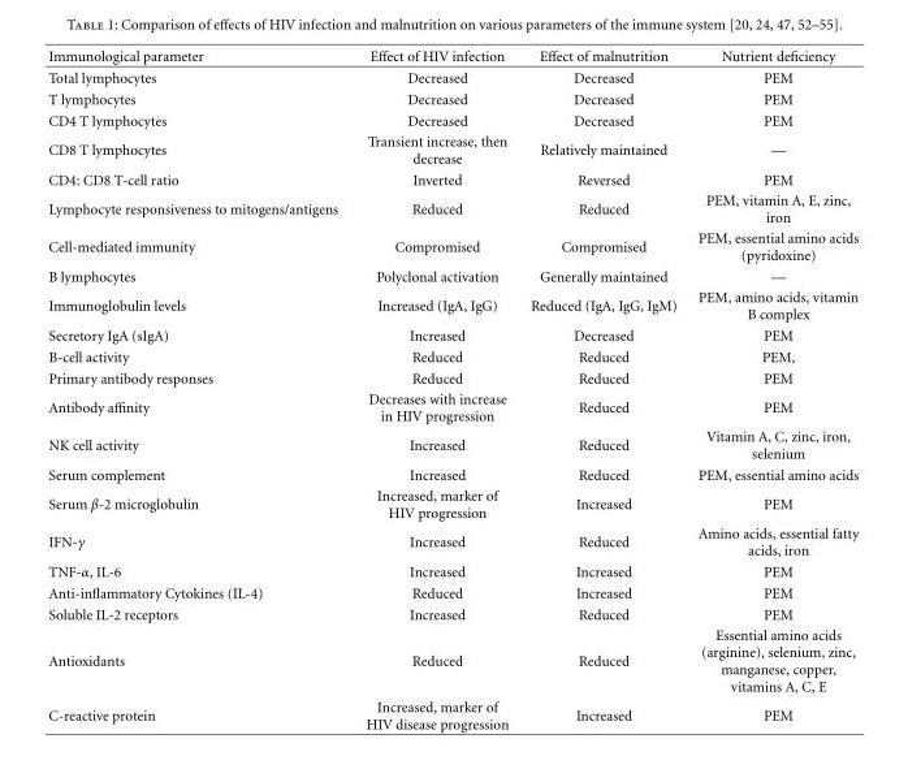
<table><thead><tr><td>Immunological parameter</td><td>Effect of HIV infection</td><td>Effect of malnutrition</td><td>Nutrient deficiency</td></tr></thead><tbody><tr><td>Total lymphocytes</td><td>Decreased</td><td>Decreased</td><td>PEM</td></tr><tr><td>T lymphocytes</td><td>Decreased</td><td>Decreased</td><td>PEM</td></tr><tr><td>CD4 T lymphocytes</td><td>Decreased</td><td>Decreased</td><td>PEM</td></tr><tr><td>CD8 T lymphocytes</td><td>Transient increase, then decrease</td><td>Relatively maintained</td><td>—</td></tr><tr><td>CD4: CD8 T-cell ratio</td><td>Inverted</td><td>Reversed</td><td>PEM</td></tr><tr><td>Lymphocyte responsiveness to mitogens/antigens</td><td>Reduced</td><td>Reduced</td><td>PEM, vitamin A, E, zinc, iron</td></tr><tr><td>Cell-mediated immunity</td><td>Compromised</td><td>Compromised</td><td>PEM, essential amino acids (pyridoxine)</td></tr><tr><td>B lymphocytes</td><td>Polyclonal activation</td><td>Generally maintained</td><td>—</td></tr><tr><td>Immunoglobulin levels</td><td>Increased (IgA, IgG)</td><td>Reduced (IgA, IgG, IgM)</td><td>PEM, amino acids, vitamin B complex</td></tr><tr><td>Secretory IgA (sIgA)</td><td>Increased</td><td>Decreased</td><td>PEM</td></tr><tr><td>B-cell activity</td><td>Reduced</td><td>Reduced</td><td>PEM,</td></tr><tr><td>Primary antibody responses</td><td>Reduced</td><td>Reduced</td><td>PEM</td></tr><tr><td>Antibody affinity</td><td>Decreases with increase in HIV progression</td><td>Reduced</td><td>PEM</td></tr><tr><td>NK cell activity</td><td>Increased</td><td>Reduced</td><td>Vitamin A, C, zinc, iron, selenium</td></tr><tr><td>Serum complement</td><td>Increased</td><td>Reduced</td><td>PEM, essential amino acids</td></tr><tr><td>Serum β-2 microglobulin</td><td>Increased, marker of HIV progression</td><td>Increased</td><td>PEM</td></tr><tr><td>IFN-γ</td><td>Increased</td><td>Reduced</td><td>Amino acids, essential fatty acids, iron</td></tr><tr><td>TNF-α, IL-6</td><td>Increased</td><td>Increased</td><td>PEM</td></tr><tr><td>Anti-inflammatory Cytokines (IL-4)</td><td>Reduced</td><td>Increased</td><td>PEM</td></tr><tr><td>Soluble IL-2 receptors</td><td>Increased</td><td>Reduced</td><td>PEM</td></tr><tr><td>Antioxidants</td><td>Reduced</td><td>Reduced</td><td>Essential amino acids (arginine), selenium, zinc, manganese, copper, vitamins A, C, E</td></tr><tr><td>C-reactive protein</td><td>Increased, marker of HIV disease progression</td><td>Increased</td><td>PEM</td></tr></tbody></table>